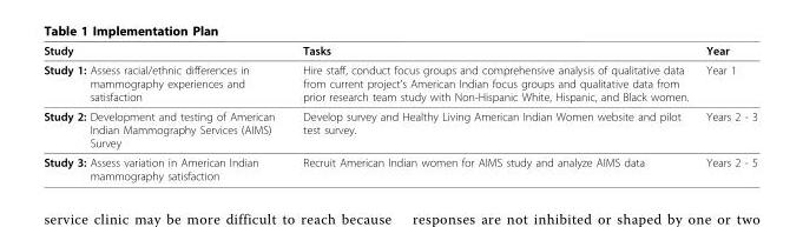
<table><thead><tr><td>Study</td><td>Tasks</td><td>Year</td></tr></thead><tbody><tr><td>Study 1: Assess racial/ethnic differences in mammography experiences and satisfaction</td><td>Hire staff, conduct focus groups and comprehensive analysis of qualitative data from current project’s American Indian focus groups and qualitative data from prior research team study with Non-Hispanic White, Hispanic, and Black women.</td><td>Year 1</td></tr><tr><td>Study 2: Development and testing of American Indian Mammography Services (AIMS) Survey</td><td>Develop survey and Healthy Living American Indian Women website and pilot test survey.</td><td>Years 2 - 3</td></tr><tr><td>Study 3: Assess variation in American Indian mammography satisfaction</td><td>Recruit American Indian women for AIMS study and analyze AIMS data</td><td>Years 2 - 5</td></tr></tbody></table>